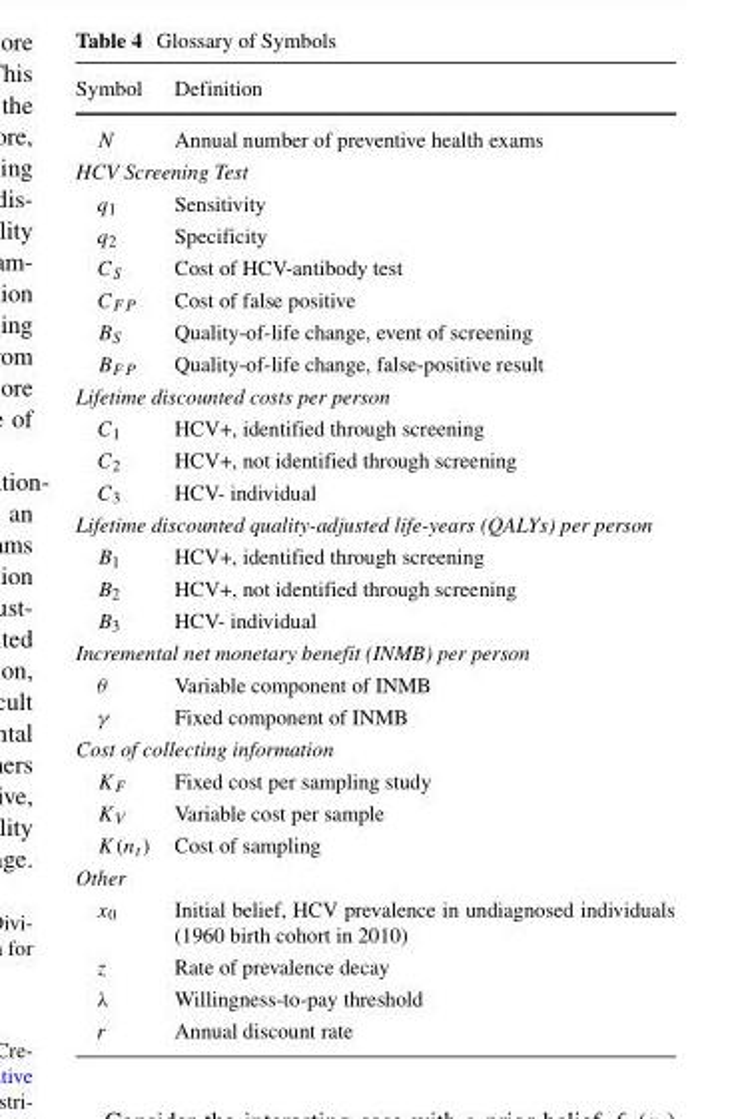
<table><thead><tr><td>Symbol</td><td>Definition</td></tr></thead><tbody><tr><td>N</td><td>Annual number of preventive health exams</td></tr><tr><td colspan="2">HCV Screening Test</td></tr><tr><td>q<sub>1</sub></td><td>Sensitivity</td></tr><tr><td>q<sub>2</sub></td><td>Specificity</td></tr><tr><td>C<sub>S</sub></td><td>Cost of HCV-antibody test</td></tr><tr><td>C<sub>FP</sub></td><td>Cost of false positive</td></tr><tr><td>B<sub>S</sub></td><td>Quality-of-life change, event of screening</td></tr><tr><td>B<sub>FP</sub></td><td>Quality-of-life change, false-positive result</td></tr><tr><td colspan="2">Lifetime discounted costs per person</td></tr><tr><td>C<sub>1</sub></td><td>HCV+, identified through screening</td></tr><tr><td>C<sub>2</sub></td><td>HCV+, not identified through screening</td></tr><tr><td>C<sub>3</sub></td><td>HCV- individual</td></tr><tr><td colspan="2">Lifetime discounted quality-adjusted life-years (QALYs) per person</td></tr><tr><td>B<sub>1</sub></td><td>HCV+, identified through screening</td></tr><tr><td>B<sub>2</sub></td><td>HCV+, not identified through screening</td></tr><tr><td>B<sub>3</sub></td><td>HCV- individual</td></tr><tr><td colspan="2">Incremental net monetary benefit (INMB) per person</td></tr><tr><td>θ</td><td>Variable component of INMB</td></tr><tr><td>γ</td><td>Fixed component of INMB</td></tr><tr><td colspan="2">Cost of collecting information</td></tr><tr><td>K<sub>F</sub></td><td>Fixed cost per sampling study</td></tr><tr><td>K<sub>V</sub></td><td>Variable cost per sample</td></tr><tr><td>K(n<sub>t</sub>)</td><td>Cost of sampling</td></tr><tr><td colspan="2">Other</td></tr><tr><td>x<sub>0</sub></td><td>Initial belief, HCV prevalence in undiagnosed individuals (1960 birth cohort in 2010)</td></tr><tr><td>z</td><td>Rate of prevalence decay</td></tr><tr><td>λ</td><td>Willingness-to-pay threshold</td></tr><tr><td>r</td><td>Annual discount rate</td></tr></tbody></table>